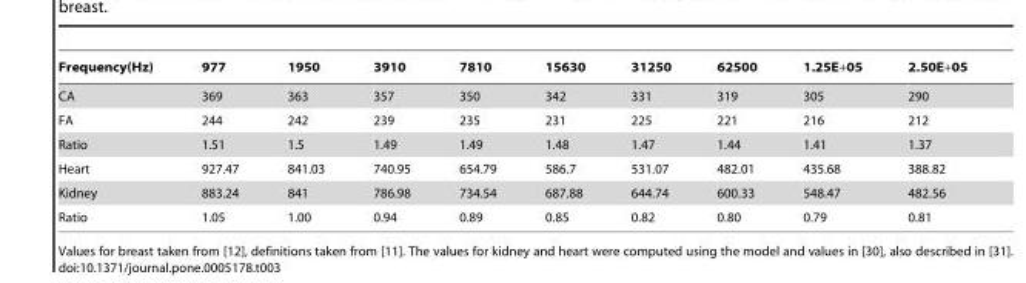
<table><thead><tr><td>Frequency(Hz)</td><td>977</td><td>1950</td><td>3910</td><td>7810</td><td>15630</td><td>31250</td><td>62500</td><td>1.25E+05</td><td>2.50E+05</td></tr></thead><tbody><tr><td>CA</td><td>369</td><td>363</td><td>357</td><td>350</td><td>342</td><td>331</td><td>319</td><td>305</td><td>290</td></tr><tr><td>FA</td><td>244</td><td>242</td><td>239</td><td>235</td><td>231</td><td>225</td><td>221</td><td>216</td><td>212</td></tr><tr><td>Ratio</td><td>1.51</td><td>1.5</td><td>1.49</td><td>1.49</td><td>1.48</td><td>1.47</td><td>1.44</td><td>1.41</td><td>1.37</td></tr><tr><td>Heart</td><td>927.47</td><td>841.03</td><td>740.95</td><td>654.79</td><td>586.7</td><td>531.07</td><td>482.01</td><td>435.68</td><td>388.82</td></tr><tr><td>Kidney</td><td>883.24</td><td>841</td><td>786.98</td><td>734.54</td><td>687.88</td><td>644.74</td><td>600.33</td><td>548.47</td><td>482.56</td></tr><tr><td>Ratio</td><td>1.05</td><td>1.00</td><td>0.94</td><td>0.89</td><td>0.85</td><td>0.82</td><td>0.80</td><td>0.79</td><td>0.81</td></tr></tbody></table>